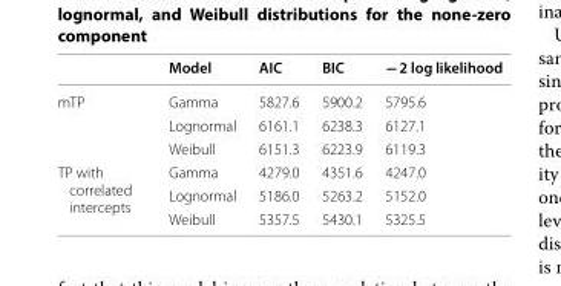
<table><thead><tr><td></td><td>Model</td><td>AIC</td><td>BIC</td><td>− 2 log likelihood</td></tr></thead><tbody><tr><td rowspan="3">mTP</td><td>Gamma</td><td>5827.6</td><td>5900.2</td><td>5795.6</td></tr><tr><td>Lognormal</td><td>6161.1</td><td>6238.3</td><td>6127.1</td></tr><tr><td>Weibull</td><td>6151.3</td><td>6223.9</td><td>6119.3</td></tr><tr><td rowspan="3">TP with correlated intercepts</td><td>Gamma</td><td>4279.0</td><td>4351.6</td><td>4247.0</td></tr><tr><td>Lognormal</td><td>5186.0</td><td>5263.2</td><td>5152.0</td></tr><tr><td>Weibull</td><td>5357.5</td><td>5430.1</td><td>5325.5</td></tr></tbody></table>